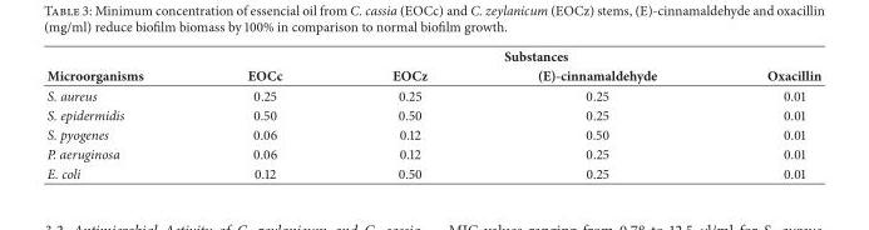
<table><thead><tr><td rowspan="2">Microorganisms</td><td colspan="4">Substances</td></tr><tr><td>EOCc</td><td>EOCz</td><td>(E)-cinnamaldehyde</td><td>Oxacillin</td></tr></thead><tbody><tr><td>S. aureus</td><td>0.25</td><td>0.25</td><td>0.25</td><td>0.01</td></tr><tr><td>S. epidermidis</td><td>0.50</td><td>0.50</td><td>0.25</td><td>0.01</td></tr><tr><td>S. pyogenes</td><td>0.06</td><td>0.12</td><td>0.50</td><td>0.01</td></tr><tr><td>P. aeruginosa</td><td>0.06</td><td>0.12</td><td>0.25</td><td>0.01</td></tr><tr><td>E. coli</td><td>0.12</td><td>0.50</td><td>0.25</td><td>0.01</td></tr></tbody></table>